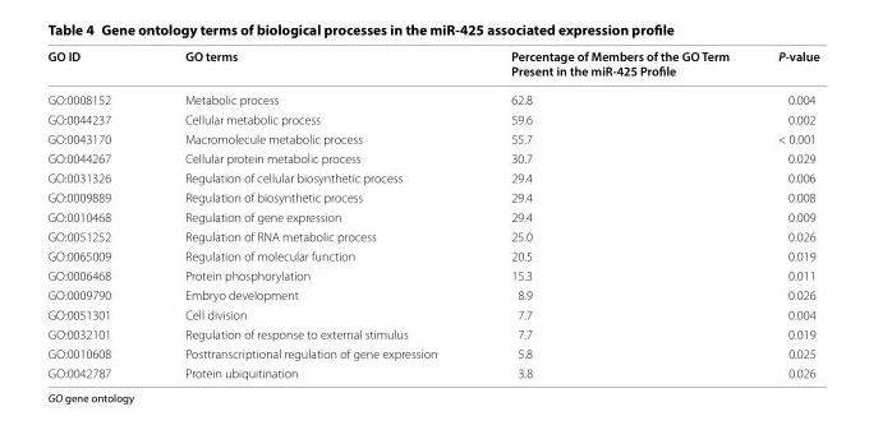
<table><thead><tr><td>GO ID</td><td>GO terms</td><td>Percentage of Members of the GO Term Present in the miR‑425 Profile</td><td>P‑value</td></tr></thead><tbody><tr><td>GO:0008152</td><td>Metabolic process</td><td>62.8</td><td>0.004</td></tr><tr><td>GO:0044237</td><td>Cellular metabolic process</td><td>59.6</td><td>0.002</td></tr><tr><td>GO:0043170</td><td>Macromolecule metabolic process</td><td>55.7</td><td>&lt; 0.001</td></tr><tr><td>GO:0044267</td><td>Cellular protein metabolic process</td><td>30.7</td><td>0.029</td></tr><tr><td>GO:0031326</td><td>Regulation of cellular biosynthetic process</td><td>29.4</td><td>0.006</td></tr><tr><td>GO:0009889</td><td>Regulation of biosynthetic process</td><td>29.4</td><td>0.008</td></tr><tr><td>GO:0010468</td><td>Regulation of gene expression</td><td>29.4</td><td>0.009</td></tr><tr><td>GO:0051252</td><td>Regulation of RNA metabolic process</td><td>25.0</td><td>0.026</td></tr><tr><td>GO:0065009</td><td>Regulation of molecular function</td><td>20.5</td><td>0.019</td></tr><tr><td>GO:0006468</td><td>Protein phosphorylation</td><td>15.3</td><td>0.011</td></tr><tr><td>GO:0009790</td><td>Embryo development</td><td>8.9</td><td>0.026</td></tr><tr><td>GO:0051301</td><td>Cell division</td><td>7.7</td><td>0.004</td></tr><tr><td>GO:0032101</td><td>Regulation of response to external stimulus</td><td>7.7</td><td>0.019</td></tr><tr><td>GO:0010608</td><td>Posttranscriptional regulation of gene expression</td><td>5.8</td><td>0.025</td></tr><tr><td>GO:0042787</td><td>Protein ubiquitination</td><td>3.8</td><td>0.026</td></tr></tbody></table>